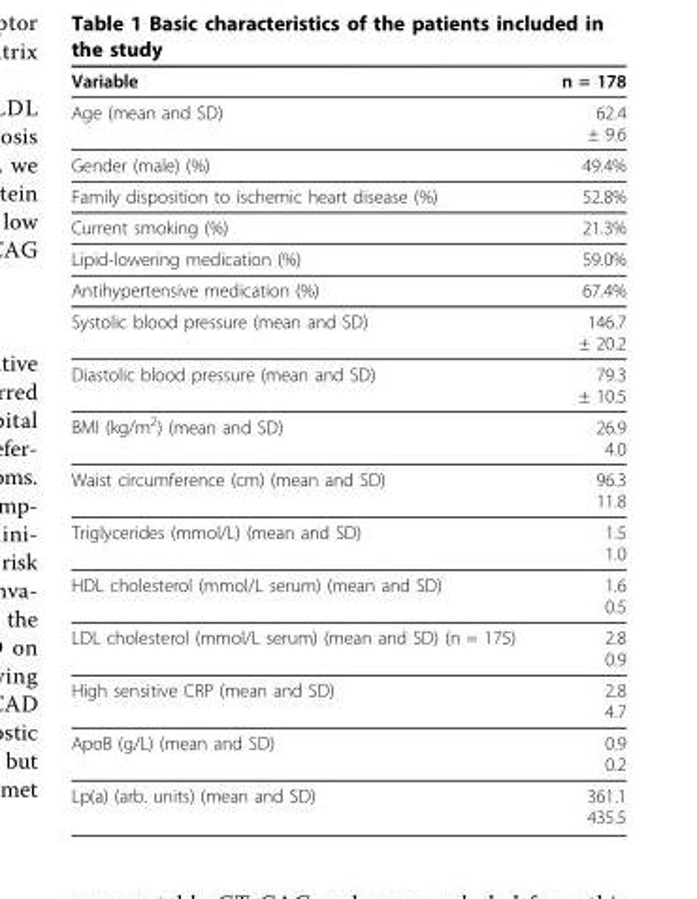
<table><thead><tr><td>Variable</td><td>n = 178</td></tr></thead><tbody><tr><td>Age (mean and SD)</td><td>62.4 ± 9.6</td></tr><tr><td>Gender (male) (%)</td><td>49.4%</td></tr><tr><td>Family disposition to ischemic heart disease (%)</td><td>52.8%</td></tr><tr><td>Current smoking (%)</td><td>21.3%</td></tr><tr><td>Lipid-lowering medication (%)</td><td>59.0%</td></tr><tr><td>Antihypertensive medication (%)</td><td>67.4%</td></tr><tr><td>Systolic blood pressure (mean and SD)</td><td>146.7 ± 20.2</td></tr><tr><td>Diastolic blood pressure (mean and SD)</td><td>79.3 ± 10.5</td></tr><tr><td>BMI (kg/m<sup>2</sup>) (mean and SD)</td><td>26.9 4.0</td></tr><tr><td>Waist circumference (cm) (mean and SD)</td><td>96.3 11.8</td></tr><tr><td>Triglycerides (mmol/L) (mean and SD)</td><td>1.5 1.0</td></tr><tr><td>HDL cholesterol (mmol/L serum) (mean and SD)</td><td>1.6 0.5</td></tr><tr><td>LDL cholesterol (mmol/L serum) (mean and SD) (n = 175)</td><td>2.8 0.9</td></tr><tr><td>High sensitive CRP (mean and SD)</td><td>2.8 4.7</td></tr><tr><td>ApoB (g/L) (mean and SD)</td><td>0.9 0.2</td></tr><tr><td>Lp(a) (arb. units) (mean and SD)</td><td>361.1 435.5</td></tr></tbody></table>